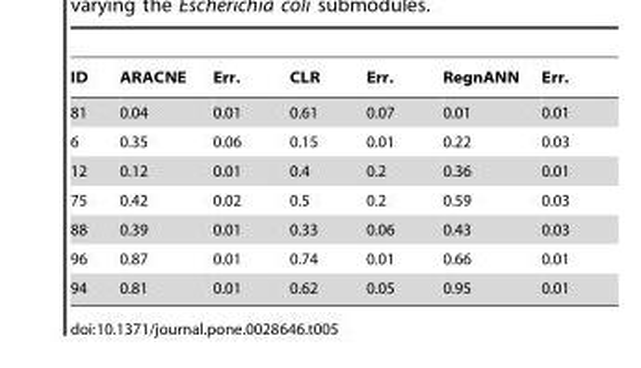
<table><thead><tr><td>ID</td><td>ARACNE</td><td>Err.</td><td>CLR</td><td>Err.</td><td>RegnANN</td><td>Err.</td></tr></thead><tbody><tr><td>81</td><td>0.04</td><td>0.01</td><td>0.61</td><td>0.07</td><td>0.01</td><td>0.01</td></tr><tr><td>6</td><td>0.35</td><td>0.06</td><td>0.15</td><td>0.01</td><td>0.22</td><td>0.03</td></tr><tr><td>12</td><td>0.12</td><td>0.01</td><td>0.4</td><td>0.2</td><td>0.36</td><td>0.01</td></tr><tr><td>75</td><td>0.42</td><td>0.02</td><td>0.5</td><td>0.2</td><td>0.59</td><td>0.03</td></tr><tr><td>88</td><td>0.39</td><td>0.01</td><td>0.33</td><td>0.06</td><td>0.43</td><td>0.03</td></tr><tr><td>96</td><td>0.87</td><td>0.01</td><td>0.74</td><td>0.01</td><td>0.66</td><td>0.01</td></tr><tr><td>94</td><td>0.81</td><td>0.01</td><td>0.62</td><td>0.05</td><td>0.95</td><td>0.01</td></tr></tbody></table>